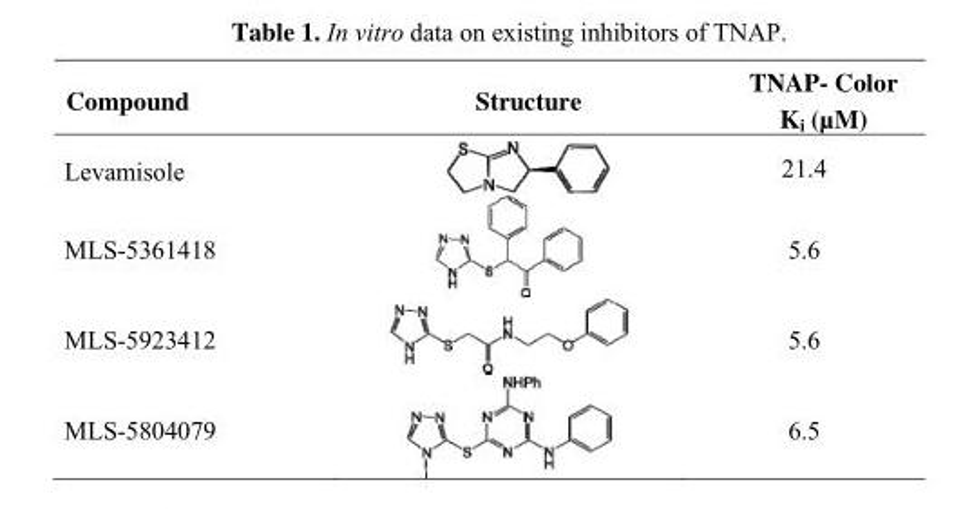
<table><thead><tr><td>Compound</td><td>Structure</td><td>TNAP- Color K<sub>i</sub> (µM)</td></tr></thead><tbody><tr><td>Levamisole</td><td></td><td>21.4</td></tr><tr><td>MLS-5361418</td><td></td><td>5.6</td></tr><tr><td>MLS-5923412</td><td></td><td>5.6</td></tr><tr><td>MLS-5804079</td><td></td><td>6.5</td></tr></tbody></table>